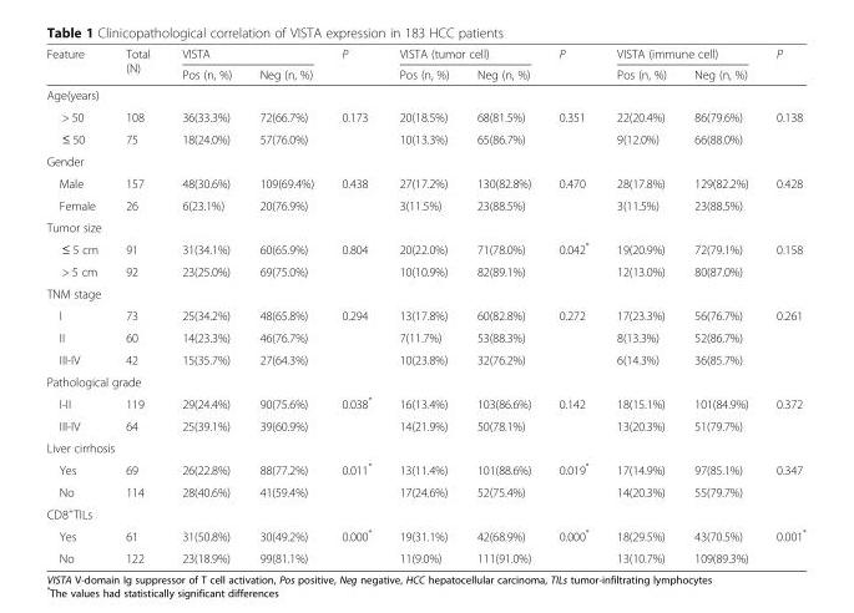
<table><thead><tr><td rowspan="2">Feature</td><td rowspan="2">Total (N)</td><td colspan="2">VISTA</td><td rowspan="2">P</td><td colspan="2">VISTA (tumor cell)</td><td rowspan="2">P</td><td colspan="2">VISTA (immune cell)</td><td rowspan="2">P</td></tr><tr><td>Pos (n, %)</td><td>Neg (n, %)</td><td>Pos (n, %)</td><td>Neg (n, %)</td><td>Pos (n, %)</td><td>Neg (n, %)</td></tr></thead><tbody><tr><td colspan="11">Age(years)</td></tr><tr><td>&gt; 50</td><td>108</td><td>36(33.3%)</td><td>72(66.7%)</td><td>0.173</td><td>20(18.5%)</td><td>68(81.5%)</td><td>0.351</td><td>22(20.4%)</td><td>86(79.6%)</td><td>0.138</td></tr><tr><td>≤ 50</td><td>75</td><td>18(24.0%)</td><td>57(76.0%)</td><td></td><td>10(13.3%)</td><td>65(86.7%)</td><td></td><td>9(12.0%)</td><td>66(88.0%)</td><td></td></tr><tr><td colspan="11">Gender</td></tr><tr><td>Male</td><td>157</td><td>48(30.6%)</td><td>109(69.4%)</td><td>0.438</td><td>27(17.2%)</td><td>130(82.8%)</td><td>0.470</td><td>28(17.8%)</td><td>129(82.2%)</td><td>0.428</td></tr><tr><td>Female</td><td>26</td><td>6(23.1%)</td><td>20(76.9%)</td><td></td><td>3(11.5%)</td><td>23(88.5%)</td><td></td><td>3(11.5%)</td><td>23(88.5%)</td><td></td></tr><tr><td colspan="11">Tumor size</td></tr><tr><td>≤ 5 cm</td><td>91</td><td>31(34.1%)</td><td>60(65.9%)</td><td>0.804</td><td>20(22.0%)</td><td>71(78.0%)</td><td>0.042*</td><td>19(20.9%)</td><td>72(79.1%)</td><td>0.158</td></tr><tr><td>&gt; 5 cm</td><td>92</td><td>23(25.0%)</td><td>69(75.0%)</td><td></td><td>10(10.9%)</td><td>82(89.1%)</td><td></td><td>12(13.0%)</td><td>80(87.0%)</td><td></td></tr><tr><td colspan="11">TNM stage</td></tr><tr><td>I</td><td>73</td><td>25(34.2%)</td><td>48(65.8%)</td><td>0.294</td><td>13(17.8%)</td><td>60(82.8%)</td><td>0.272</td><td>17(23.3%)</td><td>56(76.7%)</td><td>0.261</td></tr><tr><td>II</td><td>60</td><td>14(23.3%)</td><td>46(76.7%)</td><td></td><td>7(11.7%)</td><td>53(88.3%)</td><td></td><td>8(13.3%)</td><td>52(86.7%)</td><td></td></tr><tr><td>III-IV</td><td>42</td><td>15(35.7%)</td><td>27(64.3%)</td><td></td><td>10(23.8%)</td><td>32(76.2%)</td><td></td><td>6(14.3%)</td><td>36(85.7%)</td><td></td></tr><tr><td colspan="11">Pathological grade</td></tr><tr><td>I-II</td><td>119</td><td>29(24.4%)</td><td>90(75.6%)</td><td>0.038*</td><td>16(13.4%)</td><td>103(86.6%)</td><td>0.142</td><td>18(15.1%)</td><td>101(84.9%)</td><td>0.372</td></tr><tr><td>III-IV</td><td>64</td><td>25(39.1%)</td><td>39(60.9%)</td><td></td><td>14(21.9%)</td><td>50(78.1%)</td><td></td><td>13(20.3%)</td><td>51(79.7%)</td><td></td></tr><tr><td colspan="11">Liver cirrhosis</td></tr><tr><td>Yes</td><td>69</td><td>26(22.8%)</td><td>88(77.2%)</td><td>0.011*</td><td>13(11.4%)</td><td>101(88.6%)</td><td>0.019*</td><td>17(14.9%)</td><td>97(85.1%)</td><td>0.347</td></tr><tr><td>No</td><td>114</td><td>28(40.6%)</td><td>41(59.4%)</td><td></td><td>17(24.6%)</td><td>52(75.4%)</td><td></td><td>14(20.3%)</td><td>55(79.7%)</td><td></td></tr><tr><td colspan="11">CD8<sup>+</sup>TILs</td></tr><tr><td>Yes</td><td>61</td><td>31(50.8%)</td><td>30(49.2%)</td><td>0.000*</td><td>19(31.1%)</td><td>42(68.9%)</td><td>0.000*</td><td>18(29.5%)</td><td>43(70.5%)</td><td>0.001*</td></tr><tr><td>No</td><td>122</td><td>23(18.9%)</td><td>99(81.1%)</td><td></td><td>11(9.0%)</td><td>111(91.0%)</td><td></td><td>13(10.7%)</td><td>109(89.3%)</td><td></td></tr></tbody></table>